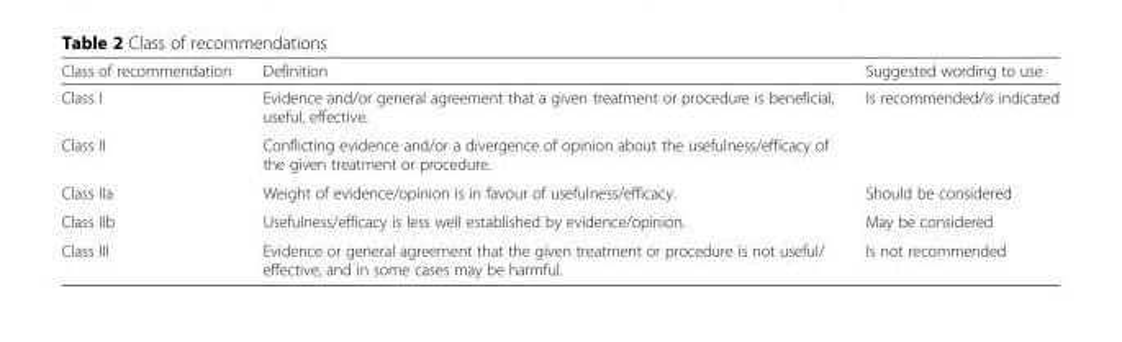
<table><thead><tr><td>Class of recommendation</td><td>Definition</td><td>Suggested wording to use</td></tr></thead><tbody><tr><td>Class I</td><td>Evidence and/or general agreement that a given treatment or procedure is beneficial, useful, effective.</td><td>Is recommended/is indicated</td></tr><tr><td>Class II</td><td>Conflicting evidence and/or a divergence of opinion about the usefulness/efficacy of the given treatment or procedure.</td><td></td></tr><tr><td>Class IIa</td><td>Weight of evidence/opinion is in favour of usefulness/efficacy.</td><td>Should be considered</td></tr><tr><td>Class IIb</td><td>Usefulness/efficacy is less well established by evidence/opinion.</td><td>May be considered</td></tr><tr><td>Class III</td><td>Evidence or general agreement that the given treatment or procedure is not useful/ effective, and in some cases may be harmful.</td><td>Is not recommended</td></tr></tbody></table>